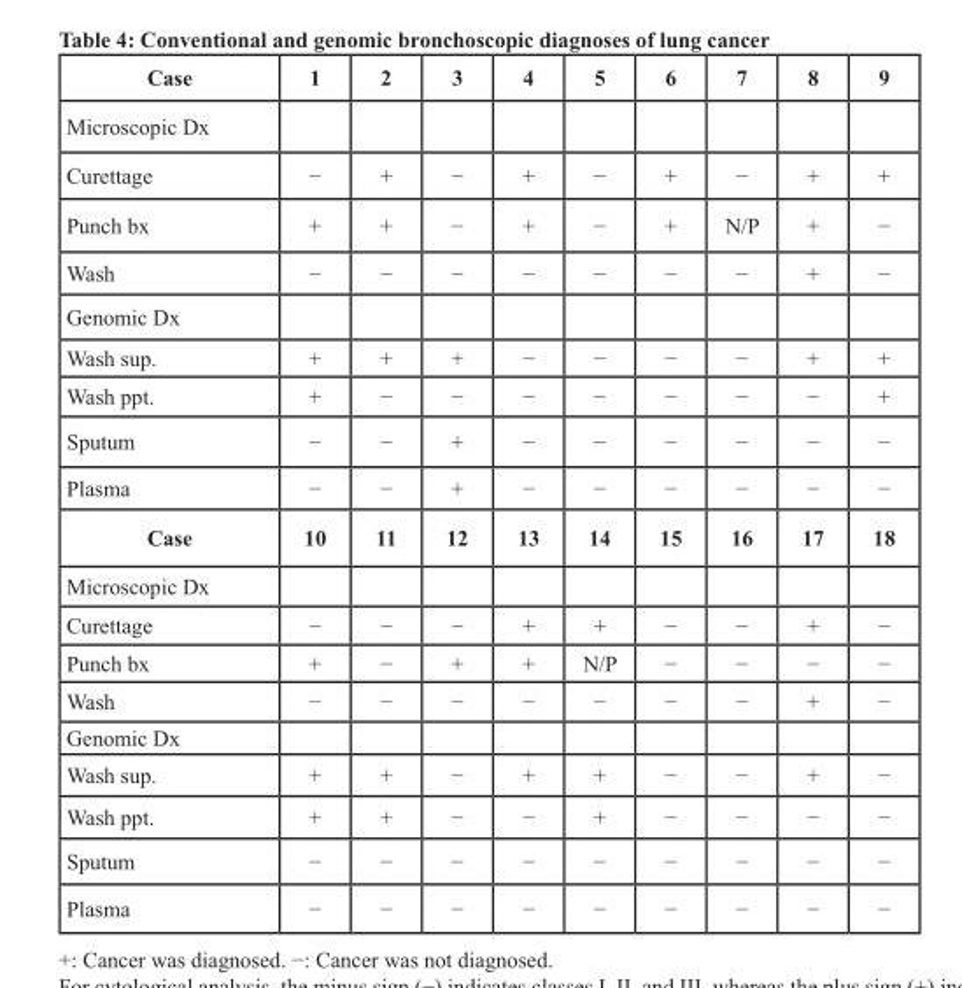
<table><thead><tr><td>Case</td><td>1</td><td>2</td><td>3</td><td>4</td><td>5</td><td>6</td><td>7</td><td>8</td><td>9</td></tr></thead><tbody><tr><td colspan="10">Microscopic Dx</td></tr><tr><td>Curettage</td><td>−</td><td>+</td><td>−</td><td>+</td><td>−</td><td>+</td><td>−</td><td>+</td><td>+</td></tr><tr><td>Punch bx</td><td>+</td><td>+</td><td>−</td><td>+</td><td>−</td><td>+</td><td>N/P</td><td>+</td><td>−</td></tr><tr><td>Wash</td><td>−</td><td>−</td><td>−</td><td>−</td><td>−</td><td>−</td><td>−</td><td>+</td><td>−</td></tr><tr><td colspan="10">Genomic Dx</td></tr><tr><td>Wash sup.</td><td>+</td><td>+</td><td>+</td><td>−</td><td>−</td><td>−</td><td>−</td><td>+</td><td>+</td></tr><tr><td>Wash ppt.</td><td>+</td><td>−</td><td>−</td><td>−</td><td>−</td><td>−</td><td>−</td><td>−</td><td>+</td></tr><tr><td>Sputum</td><td>−</td><td>−</td><td>+</td><td>−</td><td>−</td><td>−</td><td>−</td><td>−</td><td>−</td></tr><tr><td>Plasma</td><td>−</td><td>−</td><td>+</td><td>−</td><td>−</td><td>−</td><td>−</td><td>−</td><td>−</td></tr><tr><td>Case</td><td>10</td><td>11</td><td>12</td><td>13</td><td>14</td><td>15</td><td>16</td><td>17</td><td>18</td></tr><tr><td colspan="10">Microscopic Dx</td></tr><tr><td>Curettage</td><td>−</td><td>−</td><td>−</td><td>+</td><td>+</td><td>−</td><td>−</td><td>+</td><td>−</td></tr><tr><td>Punch bx</td><td>+</td><td>−</td><td>+</td><td>+</td><td>N/P</td><td>−</td><td>−</td><td>−</td><td>−</td></tr><tr><td>Wash</td><td>−</td><td>−</td><td>−</td><td>−</td><td>−</td><td>−</td><td>−</td><td>+</td><td>−</td></tr><tr><td colspan="10">Genomic Dx</td></tr><tr><td>Wash sup.</td><td>+</td><td>+</td><td>−</td><td>+</td><td>+</td><td>−</td><td>−</td><td>+</td><td>−</td></tr><tr><td>Wash ppt.</td><td>+</td><td>+</td><td>−</td><td>−</td><td>+</td><td>−</td><td>−</td><td>−</td><td>−</td></tr><tr><td>Sputum</td><td>−</td><td>−</td><td>−</td><td>−</td><td>−</td><td>−</td><td>−</td><td>−</td><td>−</td></tr><tr><td>Plasma</td><td>−</td><td>−</td><td>−</td><td>−</td><td>−</td><td>−</td><td>−</td><td>−</td><td>−</td></tr></tbody></table>